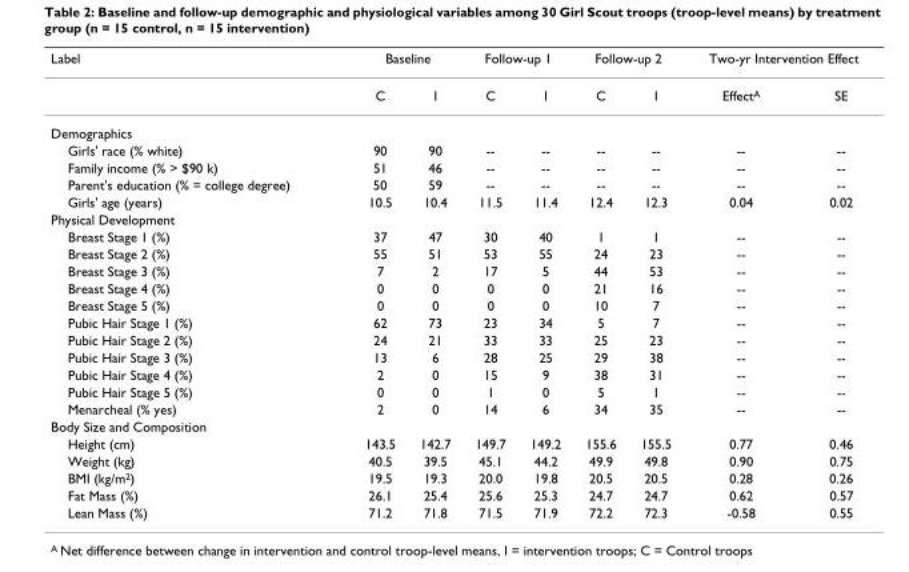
<table><thead><tr><td rowspan="2">Label</td><td colspan="2">Baseline</td><td colspan="2">Follow-up 1</td><td colspan="2">Follow-up 2</td><td colspan="2">Two-yr Intervention Effect</td></tr><tr><td>C</td><td>I</td><td>C</td><td>I</td><td>C</td><td>I</td><td>Effect<sup>A</sup></td><td>SE</td></tr></thead><tbody><tr><td colspan="9">Demographics</td></tr><tr><td>Girls&#x27; race (% white)</td><td>90</td><td>90</td><td>--</td><td>--</td><td>--</td><td>--</td><td>--</td><td>--</td></tr><tr><td>Family income (% &gt; $90 k)</td><td>51</td><td>46</td><td>--</td><td>--</td><td>--</td><td>--</td><td>--</td><td>--</td></tr><tr><td>Parent&#x27;s education (% = college degree)</td><td>50</td><td>59</td><td>--</td><td>--</td><td>--</td><td>--</td><td>--</td><td>--</td></tr><tr><td>Girls&#x27; age (years)</td><td>10.5</td><td>10.4</td><td>11.5</td><td>11.4</td><td>12.4</td><td>12.3</td><td>0.04</td><td>0.02</td></tr><tr><td colspan="9">Physical Development</td></tr><tr><td>Breast Stage 1 (%)</td><td>37</td><td>47</td><td>30</td><td>40</td><td>1</td><td>1</td><td>--</td><td>--</td></tr><tr><td>Breast Stage 2 (%)</td><td>55</td><td>51</td><td>53</td><td>55</td><td>24</td><td>23</td><td>--</td><td>--</td></tr><tr><td>Breast Stage 3 (%)</td><td>7</td><td>2</td><td>17</td><td>5</td><td>44</td><td>53</td><td>--</td><td>--</td></tr><tr><td>Breast Stage 4 (%)</td><td>0</td><td>0</td><td>0</td><td>0</td><td>21</td><td>16</td><td>--</td><td>--</td></tr><tr><td>Breast Stage 5 (%)</td><td>0</td><td>0</td><td>0</td><td>0</td><td>10</td><td>7</td><td>--</td><td>--</td></tr><tr><td>Pubic Hair Stage 1 (%)</td><td>62</td><td>73</td><td>23</td><td>34</td><td>5</td><td>7</td><td>--</td><td>--</td></tr><tr><td>Pubic Hair Stage 2 (%)</td><td>24</td><td>21</td><td>33</td><td>33</td><td>25</td><td>23</td><td>--</td><td>--</td></tr><tr><td>Pubic Hair Stage 3 (%)</td><td>13</td><td>6</td><td>28</td><td>25</td><td>29</td><td>38</td><td>--</td><td>--</td></tr><tr><td>Pubic Hair Stage 4 (%)</td><td>2</td><td>0</td><td>15</td><td>9</td><td>38</td><td>31</td><td>--</td><td>--</td></tr><tr><td>Pubic Hair Stage 5 (%)</td><td>0</td><td>0</td><td>1</td><td>0</td><td>5</td><td>1</td><td>--</td><td>--</td></tr><tr><td>Menarcheal (% yes)</td><td>2</td><td>0</td><td>14</td><td>6</td><td>34</td><td>35</td><td>--</td><td>--</td></tr><tr><td colspan="9">Body Size and Composition</td></tr><tr><td>Height (cm)</td><td>143.5</td><td>142.7</td><td>149.7</td><td>149.2</td><td>155.6</td><td>155.5</td><td>0.77</td><td>0.46</td></tr><tr><td>Weight (kg)</td><td>40.5</td><td>39.5</td><td>45.1</td><td>44.2</td><td>49.9</td><td>49.8</td><td>0.90</td><td>0.75</td></tr><tr><td>BMI (kg/m<sup>2</sup>)</td><td>19.5</td><td>19.3</td><td>20.0</td><td>19.8</td><td>20.5</td><td>20.5</td><td>0.28</td><td>0.26</td></tr><tr><td>Fat Mass (%)</td><td>26.1</td><td>25.4</td><td>25.6</td><td>25.3</td><td>24.7</td><td>24.7</td><td>0.62</td><td>0.57</td></tr><tr><td>Lean Mass (%)</td><td>71.2</td><td>71.8</td><td>71.5</td><td>71.9</td><td>72.2</td><td>72.3</td><td>-0.58</td><td>0.55</td></tr></tbody></table>